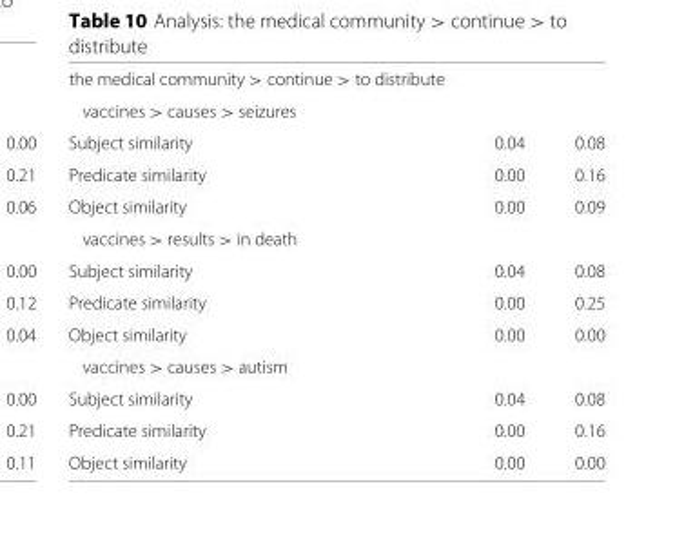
<table><tbody><tr><td colspan="3">the medical community &gt; continue &gt; to distribute</td></tr><tr><td colspan="3">vaccines &gt; causes &gt; seizures</td></tr><tr><td>Subject similarity</td><td>0.04</td><td>0.08</td></tr><tr><td>Predicate similarity</td><td>0.00</td><td>0.16</td></tr><tr><td>Object similarity</td><td>0.00</td><td>0.09</td></tr><tr><td colspan="3">vaccines &gt; results &gt; in death</td></tr><tr><td>Subject similarity</td><td>0.04</td><td>0.08</td></tr><tr><td>Predicate similarity</td><td>0.00</td><td>0.25</td></tr><tr><td>Object similarity</td><td>0.00</td><td>0.00</td></tr><tr><td colspan="3">vaccines &gt; causes &gt; autism</td></tr><tr><td>Subject similarity</td><td>0.04</td><td>0.08</td></tr><tr><td>Predicate similarity</td><td>0.00</td><td>0.16</td></tr><tr><td>Object similarity</td><td>0.00</td><td>0.00</td></tr></tbody></table>